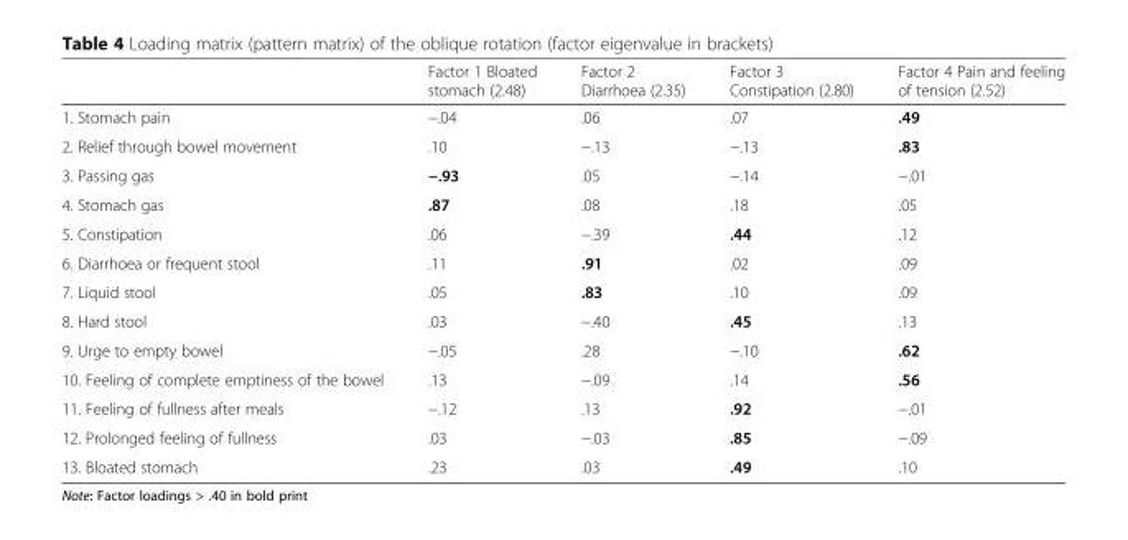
<table><thead><tr><td></td><td>Factor 1 Bloated stomach (2.48)</td><td>Factor 2 Diarrhoea (2.35)</td><td>Factor 3 Constipation (2.80)</td><td>Factor 4 Pain and feeling of tension (2.52)</td></tr></thead><tbody><tr><td>1. Stomach pain</td><td>−.04</td><td>.06</td><td>.07</td><td>.49</td></tr><tr><td>2. Relief through bowel movement</td><td>.10</td><td>−.13</td><td>−.13</td><td>.83</td></tr><tr><td>3. Passing gas</td><td>−.93</td><td>.05</td><td>−.14</td><td>−.01</td></tr><tr><td>4. Stomach gas</td><td>.87</td><td>.08</td><td>.18</td><td>.05</td></tr><tr><td>5. Constipation</td><td>.06</td><td>−.39</td><td>.44</td><td>.12</td></tr><tr><td>6. Diarrhoea or frequent stool</td><td>.11</td><td>.91</td><td>.02</td><td>.09</td></tr><tr><td>7. Liquid stool</td><td>.05</td><td>.83</td><td>.10</td><td>.09</td></tr><tr><td>8. Hard stool</td><td>.03</td><td>−.40</td><td>.45</td><td>.13</td></tr><tr><td>9. Urge to empty bowel</td><td>−.05</td><td>.28</td><td>−.10</td><td>.62</td></tr><tr><td>10. Feeling of complete emptiness of the bowel</td><td>.13</td><td>−.09</td><td>.14</td><td>.56</td></tr><tr><td>11. Feeling of fullness after meals</td><td>−.12</td><td>.13</td><td>.92</td><td>−.01</td></tr><tr><td>12. Prolonged feeling of fullness</td><td>.03</td><td>−.03</td><td>.85</td><td>−.09</td></tr><tr><td>13. Bloated stomach</td><td>.23</td><td>.03</td><td>.49</td><td>.10</td></tr></tbody></table>